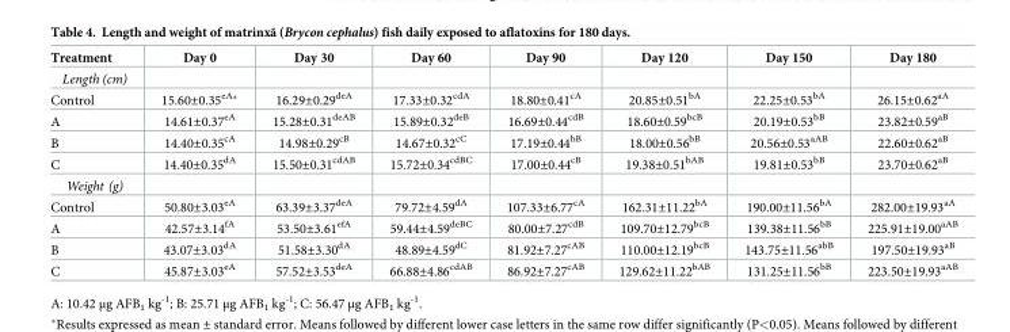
<table><thead><tr><td>Treatment</td><td>Day 0</td><td>Day 30</td><td>Day 60</td><td>Day 90</td><td>Day 120</td><td>Day 150</td><td>Day 180</td></tr></thead><tbody><tr><td colspan="8">Length (cm)</td></tr><tr><td>Control</td><td>15.60±0.35<sup>eA</sup>*</td><td>16.29±0.29<sup>deA</sup></td><td>17.33±0.32<sup>cdA</sup></td><td>18.80±0.41<sup>cA</sup></td><td>20.85±0.51<sup>bA</sup></td><td>22.25±0.53<sup>bA</sup></td><td>26.15±0.62<sup>aA</sup></td></tr><tr><td>A</td><td>14.61±0.37<sup>eA</sup></td><td>15.28±0.31<sup>deAB</sup></td><td>15.89±0.32<sup>deB</sup></td><td>16.69±0.44<sup>cdB</sup></td><td>18.60±0.59<sup>bcB</sup></td><td>20.19±0.53<sup>bB</sup></td><td>23.82±0.59<sup>aB</sup></td></tr><tr><td>B</td><td>14.40±0.35<sup>cA</sup></td><td>14.98±0.29<sup>cB</sup></td><td>14.67±0.32<sup>cC</sup></td><td>17.19±0.44<sup>bB</sup></td><td>18.00±0.56<sup>bB</sup></td><td>20.56±0.53<sup>aAB</sup></td><td>22.60±0.62<sup>aB</sup></td></tr><tr><td>C</td><td>14.40±0.35<sup>dA</sup></td><td>15.50±0.31<sup>cdAB</sup></td><td>15.72±0.34<sup>cdBC</sup></td><td>17.00±0.44<sup>cB</sup></td><td>19.38±0.51<sup>bAB</sup></td><td>19.81±0.53<sup>bB</sup></td><td>23.70±0.62<sup>aB</sup></td></tr><tr><td colspan="8">Weight (g)</td></tr><tr><td>Control</td><td>50.80±3.03<sup>eA</sup></td><td>63.39±3.37<sup>deA</sup></td><td>79.72±4.59<sup>dA</sup></td><td>107.33±6.77<sup>cA</sup></td><td>162.31±11.22<sup>bA</sup></td><td>190.00±11.56<sup>bA</sup></td><td>282.00±19.93<sup>aA</sup></td></tr><tr><td>A</td><td>42.57±3.14<sup>fA</sup></td><td>53.50±3.61<sup>efA</sup></td><td>59.44±4.59<sup>deBC</sup></td><td>80.00±7.27<sup>cdB</sup></td><td>109.70±12.79<sup>bcB</sup></td><td>139.38±11.56<sup>bB</sup></td><td>225.91±19.00<sup>aAB</sup></td></tr><tr><td>B</td><td>43.07±3.03<sup>dA</sup></td><td>51.58±3.30<sup>dA</sup></td><td>48.89±4.59<sup>dC</sup></td><td>81.92±7.27<sup>cAB</sup></td><td>110.00±12.19<sup>bcB</sup></td><td>143.75±11.56<sup>abB</sup></td><td>197.50±19.93<sup>aB</sup></td></tr><tr><td>C</td><td>45.87±3.03<sup>eA</sup></td><td>57.52±3.53<sup>deA</sup></td><td>66.88±4.86<sup>cdAB</sup></td><td>86.92±7.27<sup>cAB</sup></td><td>129.62±11.22<sup>bAB</sup></td><td>131.25±11.56<sup>bB</sup></td><td>223.50±19.93<sup>aAB</sup></td></tr></tbody></table>